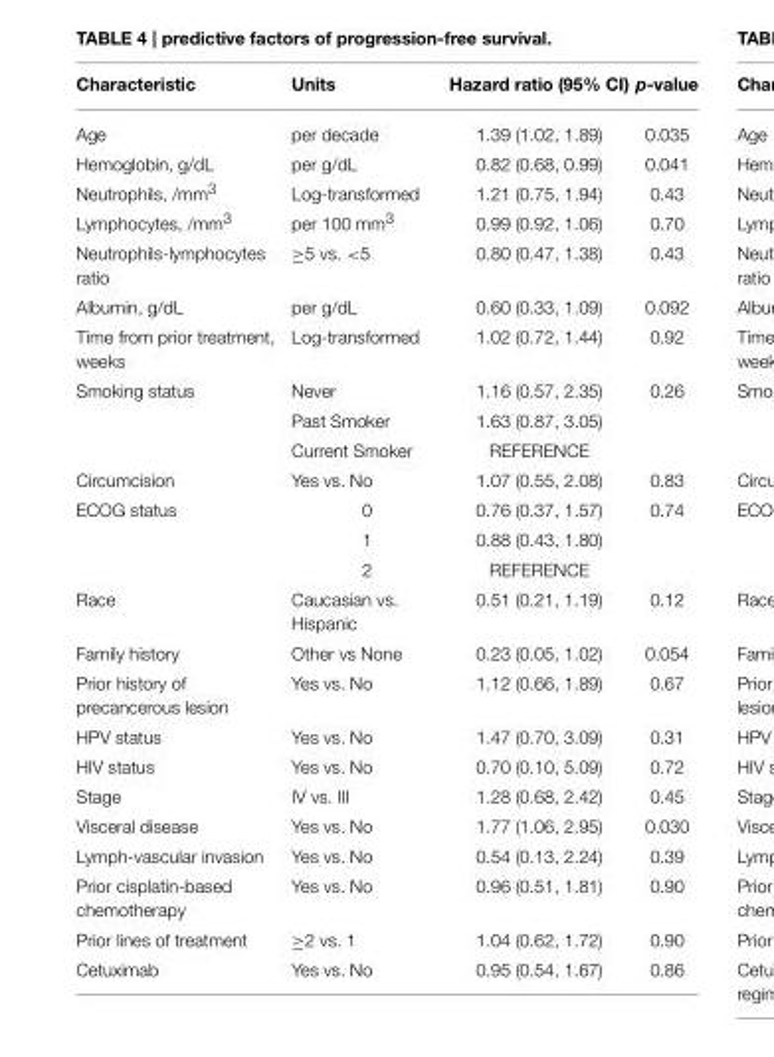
<table><thead><tr><td>Characteristic</td><td>Units</td><td>Hazard ratio (95% CI)</td><td>p-value</td></tr></thead><tbody><tr><td>Age</td><td>per decade</td><td>1.39 (1.02, 1.89)</td><td>0.035</td></tr><tr><td>Hemoglobin, g/dL</td><td>per g/dL</td><td>0.82 (0.68, 0.99)</td><td>0.041</td></tr><tr><td>Neutrophils, /mm<sup>3</sup></td><td>Log-transformed</td><td>1.21 (0.75, 1.94)</td><td>0.43</td></tr><tr><td>Lymphocytes, /mm<sup>3</sup></td><td>per 100 mm<sup>3</sup></td><td>0.99 (0.92, 1.06)</td><td>0.70</td></tr><tr><td>Neutrophils-lymphocytes ratio</td><td>≥5 vs. &lt;5</td><td>0.80 (0.47, 1.38)</td><td>0.43</td></tr><tr><td>Albumin, g/dL</td><td>per g/dL</td><td>0.60 (0.33, 1.09)</td><td>0.092</td></tr><tr><td>Time from prior treatment, weeks</td><td>Log-transformed</td><td>1.02 (0.72, 1.44)</td><td>0.92</td></tr><tr><td rowspan="3">Smoking status</td><td>Never</td><td>1.16 (0.57, 2.35)</td><td>0.26</td></tr><tr><td>Past Smoker</td><td>1.63 (0.87, 3.05)</td><td></td></tr><tr><td>Current Smoker</td><td>REFERENCE</td><td></td></tr><tr><td>Circumcision</td><td>Yes vs. No</td><td>1.07 (0.55, 2.08)</td><td>0.83</td></tr><tr><td rowspan="3">ECOG status</td><td>0</td><td>0.76 (0.37, 1.57)</td><td>0.74</td></tr><tr><td>1</td><td>0.88 (0.43, 1.80)</td><td></td></tr><tr><td>2</td><td>REFERENCE</td><td></td></tr><tr><td>Race</td><td>Caucasian vs. Hispanic</td><td>0.51 (0.21, 1.19)</td><td>0.12</td></tr><tr><td>Family history</td><td>Other vs None</td><td>0.23 (0.05, 1.02)</td><td>0.054</td></tr><tr><td>Prior history of precancerous lesion</td><td>Yes vs. No</td><td>1.12 (0.66, 1.89)</td><td>0.67</td></tr><tr><td>HPV status</td><td>Yes vs. No</td><td>1.47 (0.70, 3.09)</td><td>0.31</td></tr><tr><td>HIV status</td><td>Yes vs. No</td><td>0.70 (0.10, 5.09)</td><td>0.72</td></tr><tr><td>Stage</td><td>IV vs. III</td><td>1.28 (0.68, 2.42)</td><td>0.45</td></tr><tr><td>Visceral disease</td><td>Yes vs. No</td><td>1.77 (1.06, 2.95)</td><td>0.030</td></tr><tr><td>Lymph-vascular invasion</td><td>Yes vs. No</td><td>0.54 (0.13, 2.24)</td><td>0.39</td></tr><tr><td>Prior cisplatin-based chemotherapy</td><td>Yes vs. No</td><td>0.96 (0.51, 1.81)</td><td>0.90</td></tr><tr><td>Prior lines of treatment</td><td>≥2 vs. 1</td><td>1.04 (0.62, 1.72)</td><td>0.90</td></tr><tr><td>Cetuximab</td><td>Yes vs. No</td><td>0.95 (0.54, 1.67)</td><td>0.86</td></tr></tbody></table>